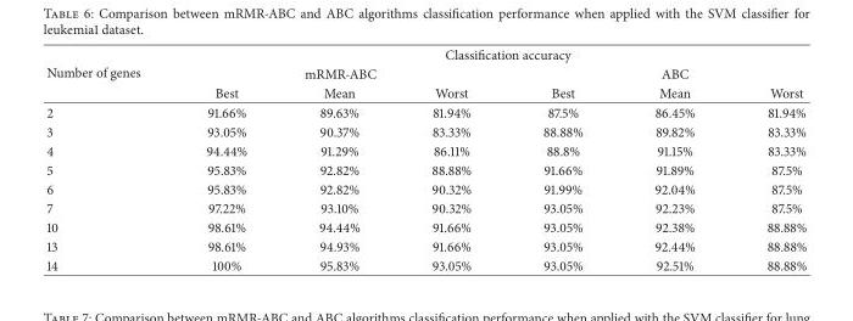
<table><thead><tr><td rowspan="3">Number of genes</td><td colspan="6">Classification accuracy</td></tr><tr><td colspan="3">mRMR-ABC</td><td colspan="3">ABC</td></tr><tr><td>Best</td><td>Mean</td><td>Worst</td><td>Best</td><td>Mean</td><td>Worst</td></tr></thead><tbody><tr><td>2</td><td>91.66%</td><td>89.63%</td><td>81.94%</td><td>87.5%</td><td>86.45%</td><td>81.94%</td></tr><tr><td>3</td><td>93.05%</td><td>90.37%</td><td>83.33%</td><td>88.88%</td><td>89.82%</td><td>83.33%</td></tr><tr><td>4</td><td>94.44%</td><td>91.29%</td><td>86.11%</td><td>88.8%</td><td>91.15%</td><td>83.33%</td></tr><tr><td>5</td><td>95.83%</td><td>92.82%</td><td>88.88%</td><td>91.66%</td><td>91.89%</td><td>87.5%</td></tr><tr><td>6</td><td>95.83%</td><td>92.82%</td><td>90.32%</td><td>91.99%</td><td>92.04%</td><td>87.5%</td></tr><tr><td>7</td><td>97.22%</td><td>93.10%</td><td>90.32%</td><td>93.05%</td><td>92.23%</td><td>87.5%</td></tr><tr><td>10</td><td>98.61%</td><td>94.44%</td><td>91.66%</td><td>93.05%</td><td>92.38%</td><td>88.88%</td></tr><tr><td>13</td><td>98.61%</td><td>94.93%</td><td>91.66%</td><td>93.05%</td><td>92.44%</td><td>88.88%</td></tr><tr><td>14</td><td>100%</td><td>95.83%</td><td>93.05%</td><td>93.05%</td><td>92.51%</td><td>88.88%</td></tr></tbody></table>